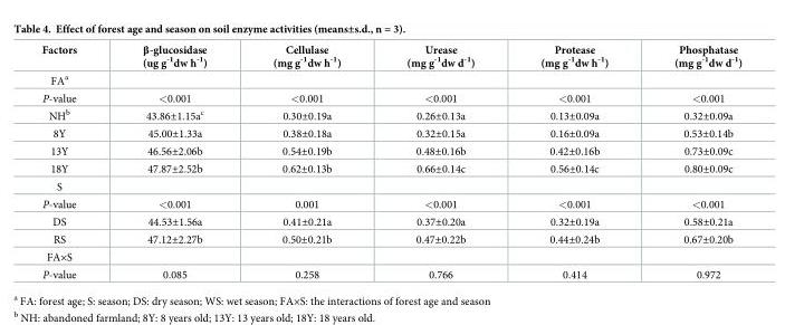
<table><thead><tr><td>Factors</td><td>β-glucosidase (ug g<sup>-1</sup>dw h<sup>-1</sup>)</td><td>Cellulase (mg g<sup>-1</sup>dw h<sup>-1</sup>)</td><td>Urease (mg g<sup>-1</sup>dw d<sup>-1</sup>)</td><td>Protease (mg g<sup>-1</sup>dw h<sup>-1</sup>)</td><td>Phosphatase (mg g<sup>-1</sup>dw d<sup>-1</sup>)</td></tr></thead><tbody><tr><td colspan="6">FA<sup>a</sup></td></tr><tr><td>P-value</td><td>&lt;0.001</td><td>&lt;0.001</td><td>&lt;0.001</td><td>&lt;0.001</td><td>&lt;0.001</td></tr><tr><td>NH<sup>b</sup></td><td>43.86±1.15a<sup>c</sup></td><td>0.30±0.19a</td><td>0.26±0.13a</td><td>0.13±0.09a</td><td>0.32±0.09a</td></tr><tr><td>8Y</td><td>45.00±1.33a</td><td>0.38±0.18a</td><td>0.32±0.15a</td><td>0.16±0.09a</td><td>0.53±0.14b</td></tr><tr><td>13Y</td><td>46.56±2.06b</td><td>0.54±0.19b</td><td>0.48±0.16b</td><td>0.42±0.16b</td><td>0.73±0.09c</td></tr><tr><td>18Y</td><td>47.87±2.52b</td><td>0.62±0.13b</td><td>0.66±0.14c</td><td>0.56±0.14c</td><td>0.80±0.09c</td></tr><tr><td colspan="6">S</td></tr><tr><td>P-value</td><td>&lt;0.001</td><td>0.001</td><td>&lt;0.001</td><td>&lt;0.001</td><td>&lt;0.001</td></tr><tr><td>DS</td><td>44.53±1.56a</td><td>0.41±0.21a</td><td>0.37±0.20a</td><td>0.32±0.19a</td><td>0.58±0.21a</td></tr><tr><td>RS</td><td>47.12±2.27b</td><td>0.50±0.21b</td><td>0.47±0.22b</td><td>0.44±0.24b</td><td>0.67±0.20b</td></tr><tr><td colspan="6">FA×S</td></tr><tr><td>P-value</td><td>0.085</td><td>0.258</td><td>0.766</td><td>0.414</td><td>0.972</td></tr></tbody></table>